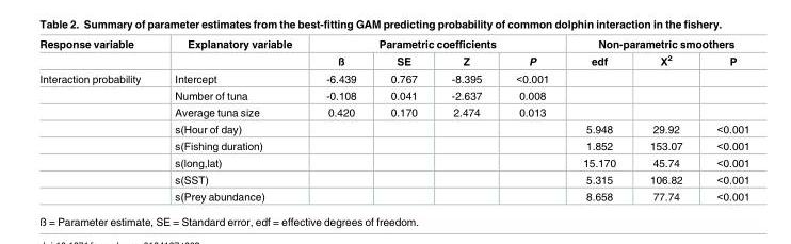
<table><thead><tr><td rowspan="2">Response variable</td><td rowspan="2">Explanatory variable</td><td colspan="4">Parametric coefficients</td><td colspan="3">Non-parametric smoothers</td></tr><tr><td>ß</td><td>SE</td><td>Z</td><td>P</td><td>edf</td><td>Χ<sup>2</sup></td><td>P</td></tr></thead><tbody><tr><td rowspan="8">Interaction probability</td><td>Intercept</td><td>-6.439</td><td>0.767</td><td>-8.395</td><td>&lt;0.001</td><td></td><td></td><td></td></tr><tr><td>Number of tuna</td><td>-0.108</td><td>0.041</td><td>-2.637</td><td>0.008</td><td></td><td></td><td></td></tr><tr><td>Average tuna size</td><td>0.420</td><td>0.170</td><td>2.474</td><td>0.013</td><td></td><td></td><td></td></tr><tr><td>s(Hour of day)</td><td></td><td></td><td></td><td></td><td>5.948</td><td>29.92</td><td>&lt;0.001</td></tr><tr><td>s(Fishing duration)</td><td></td><td></td><td></td><td></td><td>1.852</td><td>153.07</td><td>&lt;0.001</td></tr><tr><td>s(long,lat)</td><td></td><td></td><td></td><td></td><td>15.170</td><td>45.74</td><td>&lt;0.001</td></tr><tr><td>s(SST)</td><td></td><td></td><td></td><td></td><td>5.315</td><td>106.82</td><td>&lt;0.001</td></tr><tr><td>s(Prey abundance)</td><td></td><td></td><td></td><td></td><td>8.658</td><td>77.74</td><td>&lt;0.001</td></tr></tbody></table>